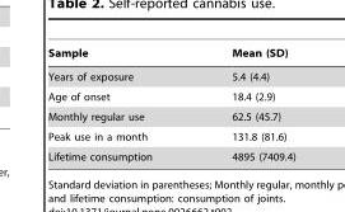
<table><thead><tr><td>Sample</td><td>Mean (SD)</td></tr></thead><tbody><tr><td>Years of exposure</td><td>5.4 (4.4)</td></tr><tr><td>Age of onset</td><td>18.4 (2.9)</td></tr><tr><td>Monthly regular use</td><td>62.5 (45.7)</td></tr><tr><td>Peak use in a month</td><td>131.8 (81.6)</td></tr><tr><td>Lifetime consumption</td><td>4895 (7409.4)</td></tr></tbody></table>